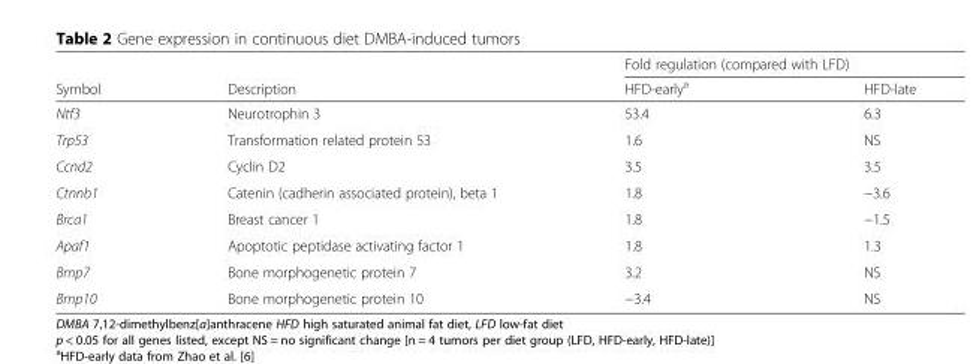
<table><thead><tr><td rowspan="2">Symbol</td><td rowspan="2">Description</td><td colspan="2">Fold regulation (compared with LFD)</td></tr><tr><td>HFD-early<sup>a</sup></td><td>HFD-late</td></tr></thead><tbody><tr><td>Ntf3</td><td>Neurotrophin 3</td><td>53.4</td><td>6.3</td></tr><tr><td>Trp53</td><td>Transformation related protein 53</td><td>1.6</td><td>NS</td></tr><tr><td>Ccnd2</td><td>Cyclin D2</td><td>3.5</td><td>3.5</td></tr><tr><td>Ctnnb1</td><td>Catenin (cadherin associated protein), beta 1</td><td>1.8</td><td>−3.6</td></tr><tr><td>Brca1</td><td>Breast cancer 1</td><td>1.8</td><td>−1.5</td></tr><tr><td>Apaf1</td><td>Apoptotic peptidase activating factor 1</td><td>1.8</td><td>1.3</td></tr><tr><td>Bmp7</td><td>Bone morphogenetic protein 7</td><td>3.2</td><td>NS</td></tr><tr><td>Bmp10</td><td>Bone morphogenetic protein 10</td><td>−3.4</td><td>NS</td></tr></tbody></table>